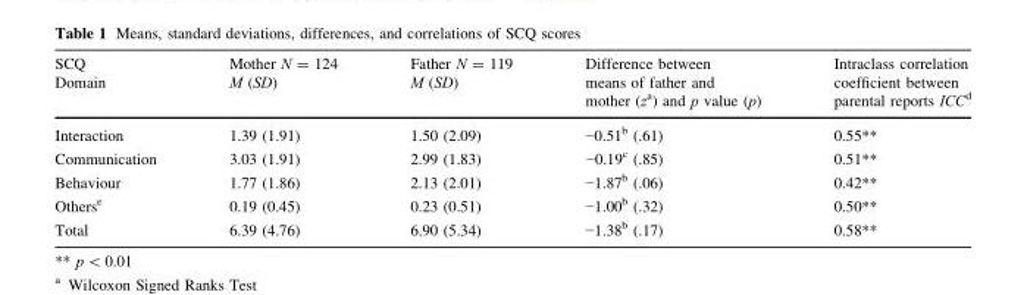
<table><thead><tr><td rowspan="2">SCQ Domain</td><td rowspan="2">Mother N = 124 M (SD)</td><td rowspan="2">Father N = 119 M (SD)</td><td rowspan="2">Difference between means of father and mother (z<sup>a</sup>) and p value (p)</td><td rowspan="2">Intraclass correlation coefficient between parental reports ICC<sup>d</sup></td></tr><tr></tr></thead><tbody><tr><td>Interaction</td><td>1.39 (1.91)</td><td>1.50 (2.09)</td><td>−0.51<sup>b</sup> (.61)</td><td>0.55**</td></tr><tr><td>Communication</td><td>3.03 (1.91)</td><td>2.99 (1.83)</td><td>−0.19<sup>c</sup> (.85)</td><td>0.51**</td></tr><tr><td>Behaviour</td><td>1.77 (1.86)</td><td>2.13 (2.01)</td><td>−1.87<sup>b</sup> (.06)</td><td>0.42**</td></tr><tr><td>Others<sup>e</sup></td><td>0.19 (0.45)</td><td>0.23 (0.51)</td><td>−1.00<sup>b</sup> (.32)</td><td>0.50**</td></tr><tr><td>Total</td><td>6.39 (4.76)</td><td>6.90 (5.34)</td><td>−1.38<sup>b</sup> (.17)</td><td>0.58**</td></tr></tbody></table>